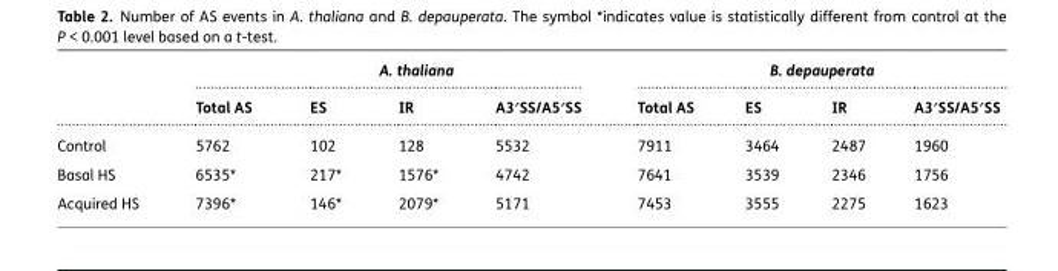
<table><thead><tr><td rowspan="2"></td><td colspan="4">A. thaliana</td><td colspan="4">B. depauperata</td></tr><tr><td>Total AS</td><td>ES</td><td>IR</td><td>A3′SS/A5′SS</td><td>Total AS</td><td>ES</td><td>IR</td><td>A3′SS/A5′SS</td></tr></thead><tbody><tr><td>Control</td><td>5762</td><td>102</td><td>128</td><td>5532</td><td>7911</td><td>3464</td><td>2487</td><td>1960</td></tr><tr><td>Basal HS</td><td>6535*</td><td>217*</td><td>1576*</td><td>4742</td><td>7641</td><td>3539</td><td>2346</td><td>1756</td></tr><tr><td>Acquired HS</td><td>7396*</td><td>146*</td><td>2079*</td><td>5171</td><td>7453</td><td>3555</td><td>2275</td><td>1623</td></tr></tbody></table>